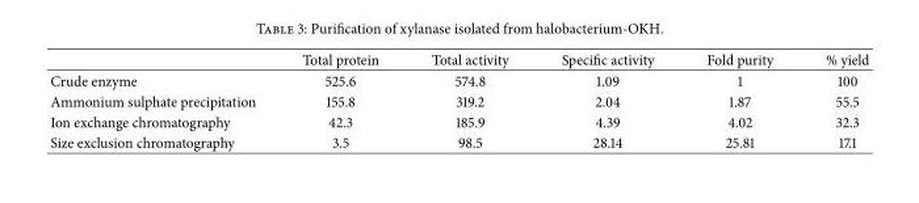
<table><thead><tr><td></td><td>Total protein</td><td>Total activity</td><td>Specific activity</td><td>Fold purity</td><td>% yield</td></tr></thead><tbody><tr><td>Crude enzyme</td><td>525.6</td><td>574.8</td><td>1.09</td><td>1</td><td>100</td></tr><tr><td>Ammonium sulphate precipitation</td><td>155.8</td><td>319.2</td><td>2.04</td><td>1.87</td><td>55.5</td></tr><tr><td>Ion exchange chromatography</td><td>42.3</td><td>185.9</td><td>4.39</td><td>4.02</td><td>32.3</td></tr><tr><td>Size exclusion chromatography</td><td>3.5</td><td>98.5</td><td>28.14</td><td>25.81</td><td>17.1</td></tr></tbody></table>